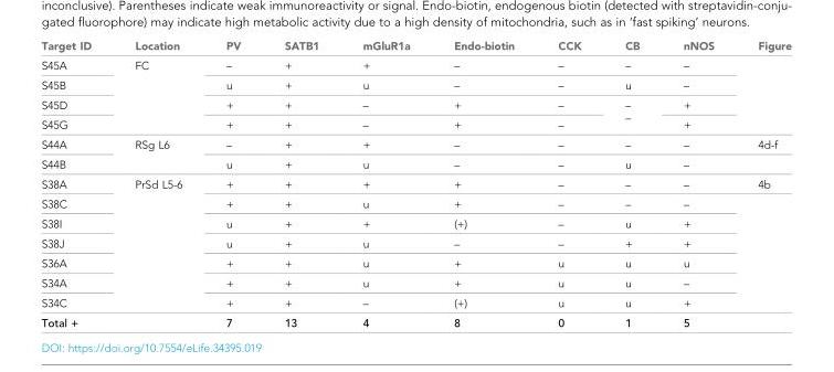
<table><thead><tr><td>Target ID</td><td>Location</td><td>PV</td><td>SATB1</td><td>mGluR1a</td><td>Endo-biotin</td><td>CCK</td><td>CB</td><td>nNOS</td><td>Figure</td></tr></thead><tbody><tr><td>S45A</td><td rowspan="4">FC</td><td>–</td><td>+</td><td>+</td><td>–</td><td>–</td><td>–</td><td>–</td><td rowspan="4"></td></tr><tr><td>S45B</td><td>u</td><td>+</td><td>u</td><td>–</td><td>–</td><td>u</td><td>–</td></tr><tr><td>S45D</td><td>+</td><td>+</td><td>–</td><td>+</td><td>–</td><td rowspan="2">– –</td><td>+</td></tr><tr><td>S45G</td><td>+</td><td>+</td><td>–</td><td>+</td><td>–</td><td>+</td></tr><tr><td>S44A</td><td rowspan="2">RSg L6</td><td>–</td><td>+</td><td>+</td><td>–</td><td>–</td><td>–</td><td>–</td><td>4d-f</td></tr><tr><td>S44B</td><td>u</td><td>+</td><td>u</td><td>–</td><td>–</td><td>u</td><td>–</td><td></td></tr><tr><td>S38A</td><td rowspan="7">PrSd L5-6</td><td>+</td><td>+</td><td>+</td><td>+</td><td>–</td><td>–</td><td>–</td><td>4b</td></tr><tr><td>S38C</td><td>+</td><td>+</td><td>u</td><td>+</td><td>–</td><td>–</td><td>–</td><td rowspan="6"></td></tr><tr><td>S38I</td><td>u</td><td>+</td><td>+</td><td>(+)</td><td>–</td><td>u</td><td>+</td></tr><tr><td>S38J</td><td>u</td><td>+</td><td>u</td><td>–</td><td>–</td><td>+</td><td>+</td></tr><tr><td>S36A</td><td>+</td><td>+</td><td>u</td><td>+</td><td>u</td><td>u</td><td>u</td></tr><tr><td>S34A</td><td>+</td><td>+</td><td>u</td><td>+</td><td>u</td><td>u</td><td>–</td></tr><tr><td>S34C</td><td>+</td><td>+</td><td>–</td><td>(+)</td><td>u</td><td>u</td><td>+</td></tr><tr><td colspan="2">Total +</td><td>7</td><td>13</td><td>4</td><td>8</td><td>0</td><td>1</td><td>5</td><td></td></tr></tbody></table>